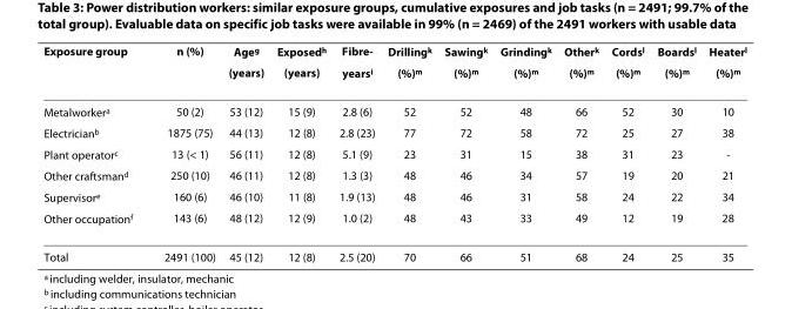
<table><thead><tr><td rowspan="2">Exposure group</td><td rowspan="2">n (%)</td><td rowspan="2">Age<sup>g</sup> (years)</td><td rowspan="2">Exposed<sup>h</sup> (years)</td><td rowspan="2">Fibre- years<sup>i</sup></td><td rowspan="2">Drilling<sup>k</sup> (%)<sup>m</sup></td><td rowspan="2">Sawing<sup>k</sup> (%)<sup>m</sup></td><td rowspan="2">Grinding<sup>k</sup> (%)<sup>m</sup></td><td rowspan="2">Other<sup>k</sup> (%)<sup>m</sup></td><td rowspan="2">Cords<sup>l</sup> (%)<sup>m</sup></td><td rowspan="2">Boards<sup>l</sup> (%)<sup>m</sup></td><td rowspan="2">Heater<sup>l</sup> (%)<sup>m</sup></td></tr><tr></tr></thead><tbody><tr><td>Metalworker<sup>a</sup></td><td>50 (2)</td><td>53 (12)</td><td>15 (9)</td><td>2.8 (6)</td><td>52</td><td>52</td><td>48</td><td>66</td><td>52</td><td>30</td><td>10</td></tr><tr><td>Electrician<sup>b</sup></td><td>1875 (75)</td><td>44 (13)</td><td>12 (8)</td><td>2.8 (23)</td><td>77</td><td>72</td><td>58</td><td>72</td><td>25</td><td>27</td><td>38</td></tr><tr><td>Plant operator<sup>c</sup></td><td>13 (&lt; 1)</td><td>56 (11)</td><td>12 (8)</td><td>5.1 (9)</td><td>23</td><td>31</td><td>15</td><td>38</td><td>31</td><td>23</td><td>-</td></tr><tr><td>Other craftsman<sup>d</sup></td><td>250 (10)</td><td>46 (11)</td><td>12 (8)</td><td>1.3 (3)</td><td>48</td><td>46</td><td>34</td><td>57</td><td>19</td><td>20</td><td>21</td></tr><tr><td>Supervisor<sup>e</sup></td><td>160 (6)</td><td>46 (10)</td><td>11 (8)</td><td>1.9 (13)</td><td>48</td><td>46</td><td>31</td><td>58</td><td>24</td><td>22</td><td>34</td></tr><tr><td>Other occupation<sup>f</sup></td><td>143 (6)</td><td>48 (12)</td><td>12 (9)</td><td>1.0 (2)</td><td>48</td><td>43</td><td>33</td><td>49</td><td>12</td><td>19</td><td>28</td></tr><tr><td>Total</td><td>2491 (100)</td><td>45 (12)</td><td>12 (8)</td><td>2.5 (20)</td><td>70</td><td>66</td><td>51</td><td>68</td><td>24</td><td>25</td><td>35</td></tr></tbody></table>